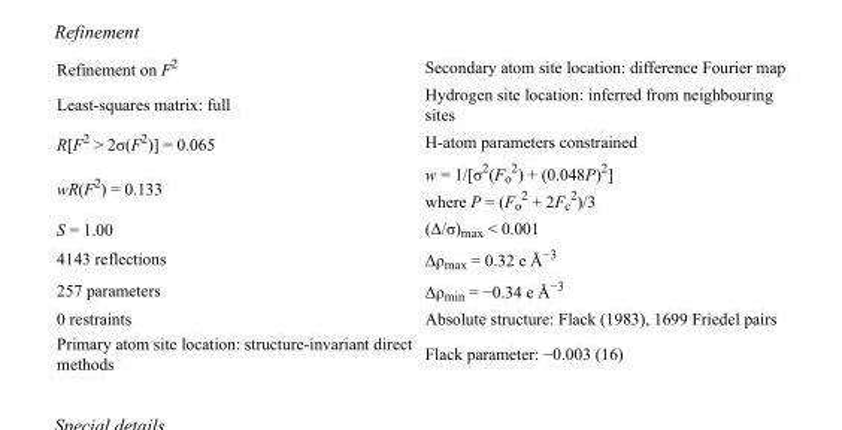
<table><tbody><tr><td>Refinement on F<sup>2</sup></td><td>Secondary atom site location: difference Fourier map</td></tr><tr><td>Least-squares matrix: full</td><td>Hydrogen site location: inferred from neighbouring sites</td></tr><tr><td>R[F<sup>2</sup> &gt; 2σ(F<sup>2</sup>)] = 0.065</td><td>H-atom parameters constrained</td></tr><tr><td>wR(F<sup>2</sup>) = 0.133</td><td>w = 1/[σ<sup>2</sup>(F<sub>o</sub> <sup>2</sup>) + (0.048P)<sup>2</sup>] where P = (F<sub>o</sub> <sup>2</sup> + 2F<sub>c</sub> <sup>2</sup>)/3</td></tr><tr><td>S = 1.00</td><td>(Δ/σ)<sub>max</sub> &lt; 0.001</td></tr><tr><td>4143 reflections</td><td>Δρ<sub>max</sub> = 0.32 e Å<sup>−3</sup></td></tr><tr><td>257 parameters</td><td>Δρ<sub>min</sub> = −0.34 e Å<sup>−3</sup></td></tr><tr><td>0 restraints</td><td>Absolute structure: Flack (1983), 1699 Friedel pairs</td></tr><tr><td>Primary atom site location: structure-invariant direct methods</td><td>Flack parameter: −0.003 (16)</td></tr></tbody></table>